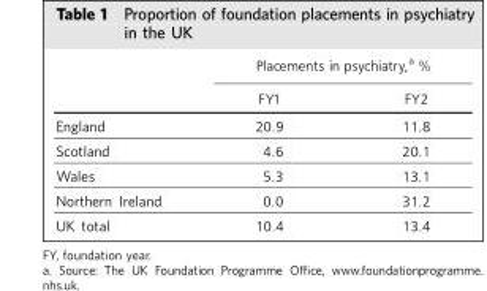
<table><thead><tr><td rowspan="2"></td><td colspan="2">Placements in psychiatry,<sup>a</sup> %</td></tr><tr><td>FY1</td><td>FY2</td></tr></thead><tbody><tr><td>England</td><td>20.9</td><td>11.8</td></tr><tr><td>Scotland</td><td>4.6</td><td>20.1</td></tr><tr><td>Wales</td><td>5.3</td><td>13.1</td></tr><tr><td>Northern Ireland</td><td>0.0</td><td>31.2</td></tr><tr><td>UK total</td><td>10.4</td><td>13.4</td></tr></tbody></table>